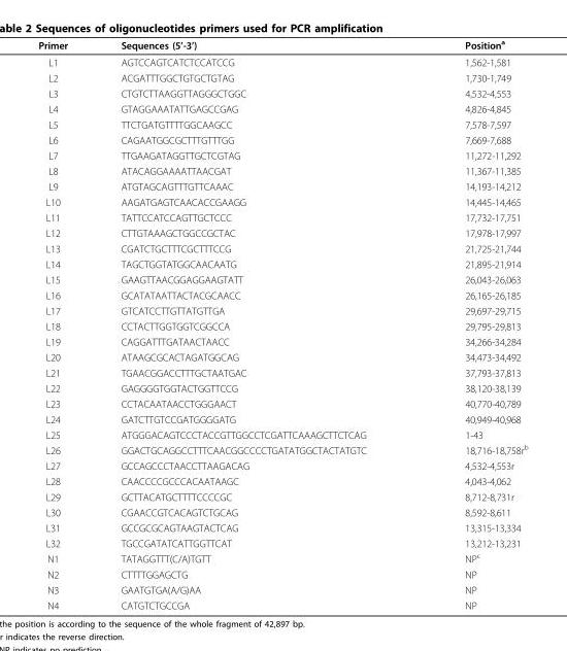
<table><thead><tr><td>Primer</td><td>Sequences (5’-3’)</td><td>Position<sup>a</sup></td></tr></thead><tbody><tr><td>L1</td><td>AGTCCAGTCATCTCCATCCG</td><td>1,562-1,581</td></tr><tr><td>L2</td><td>ACGATTTGGCTGTGCTGTAG</td><td>1,730-1,749</td></tr><tr><td>L3</td><td>CTGTCTTAAGGTTAGGGCTGGC</td><td>4,532-4,553</td></tr><tr><td>L4</td><td>GTAGGAAATATTGAGCCGAG</td><td>4,826-4,845</td></tr><tr><td>L5</td><td>TTCTGATGTTTTGGCAAGCC</td><td>7,578-7,597</td></tr><tr><td>L6</td><td>CAGAATGGCGCTTTGTTTGG</td><td>7,669-7,688</td></tr><tr><td>L7</td><td>TTGAAGATAGGTTGCTCGTAG</td><td>11,272-11,292</td></tr><tr><td>L8</td><td>ATACAGGAAAATTAACGAT</td><td>11,367-11,385</td></tr><tr><td>L9</td><td>ATGTAGCAGTTTGTTCAAAC</td><td>14,193-14,212</td></tr><tr><td>L10</td><td>AAGATGAGTCAACACCGAAGG</td><td>14,445-14,465</td></tr><tr><td>L11</td><td>TATTCCATCCAGTTGCTCCC</td><td>17,732-17,751</td></tr><tr><td>L12</td><td>CTTGTAAAGCTGGCCGCTAC</td><td>17,978-17,997</td></tr><tr><td>L13</td><td>CGATCTGCTTTCGCTTTCCG</td><td>21,725-21,744</td></tr><tr><td>L14</td><td>TAGCTGGTATGGCAACAATG</td><td>21,895-21,914</td></tr><tr><td>L15</td><td>GAAGTTAACGGAGGAAGTATT</td><td>26,043-26,063</td></tr><tr><td>L16</td><td>GCATATAATTACTACGCAACC</td><td>26,165-26,185</td></tr><tr><td>L17</td><td>GTCATCCTTGTTATGTTGA</td><td>29,697-29,715</td></tr><tr><td>L18</td><td>CCTACTTGGTGGTCGGCCA</td><td>29,795-29,813</td></tr><tr><td>L19</td><td>CAGGATTTGATAACTAACC</td><td>34,266-34,284</td></tr><tr><td>L20</td><td>ATAAGCGCACTAGATGGCAG</td><td>34,473-34,492</td></tr><tr><td>L21</td><td>TGAACGGACCTTTGCTAATGAC</td><td>37,793-37,813</td></tr><tr><td>L22</td><td>GAGGGGTGGTACTGGTTCCG</td><td>38,120-38,139</td></tr><tr><td>L23</td><td>CCTACAATAACCTGGGAACT</td><td>40,770-40,789</td></tr><tr><td>L24</td><td>GATCTTGTCCGATGGGGATG</td><td>40,949-40,968</td></tr><tr><td>L25</td><td>ATGGGACAGTCCCTACCGTTGGCCTCGATTCAAAGCTTCTCAG</td><td>1-43</td></tr><tr><td>L26</td><td>GGACTGCAGGCCTTTCAACGGCCCCTGATATGGCTACTATGTC</td><td>18,716-18,758r<sup>b</sup></td></tr><tr><td>L27</td><td>GCCAGCCCTAACCTTAAGACAG</td><td>4,532-4,553r</td></tr><tr><td>L28</td><td>CAACCCCGCCCACAATAAGC</td><td>4,043-4,062</td></tr><tr><td>L29</td><td>GCTTACATGCTTTTCCCCGC</td><td>8,712-8,731r</td></tr><tr><td>L30</td><td>CGAACCGTCACAGTCTGCAG</td><td>8,592-8,611</td></tr><tr><td>L31</td><td>GCCGCGCAGTAAGTACTCAG</td><td>13,315-13,334</td></tr><tr><td>L32</td><td>TGCCGATATCATTGGTTCAT</td><td>13,212-13,231</td></tr><tr><td>N1</td><td>TATAGGTTT(C/A)TGTT</td><td>NP<sup>c</sup></td></tr><tr><td>N2</td><td>CTTTTGGAGCTG</td><td>NP</td></tr><tr><td>N3</td><td>GAATGTGA(A/G)AA</td><td>NP</td></tr><tr><td>N4</td><td>CATGTCTGCCGA</td><td>NP</td></tr></tbody></table>